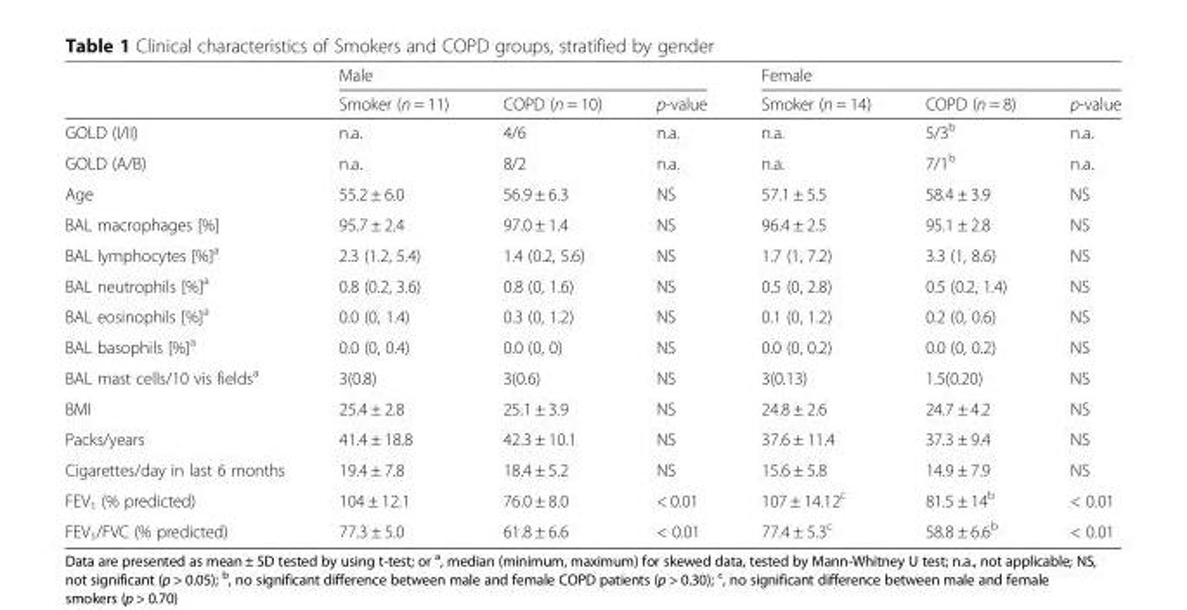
<table><thead><tr><td rowspan="2"></td><td colspan="3">Male</td><td colspan="3">Female</td></tr><tr><td>Smoker (n = 11)</td><td>COPD (n = 10)</td><td>p-value</td><td>Smoker (n = 14)</td><td>COPD (n = 8)</td><td>p-value</td></tr></thead><tbody><tr><td>GOLD (I/II)</td><td>n.a.</td><td>4/6</td><td>n.a.</td><td>n.a.</td><td>5/3<sup>b</sup></td><td>n.a.</td></tr><tr><td>GOLD (A/B)</td><td>n.a.</td><td>8/2</td><td>n.a.</td><td>n.a.</td><td>7/1<sup>b</sup></td><td>n.a.</td></tr><tr><td>Age</td><td>55.2 ± 6.0</td><td>56.9 ± 6.3</td><td>NS</td><td>57.1 ± 5.5</td><td>58.4 ± 3.9</td><td>NS</td></tr><tr><td>BAL macrophages [%]</td><td>95.7 ± 2.4</td><td>97.0 ± 1.4</td><td>NS</td><td>96.4 ± 2.5</td><td>95.1 ± 2.8</td><td>NS</td></tr><tr><td>BAL lymphocytes [%]<sup>a</sup></td><td>2.3 (1.2, 5.4)</td><td>1.4 (0.2, 5.6)</td><td>NS</td><td>1.7 (1, 7.2)</td><td>3.3 (1, 8.6)</td><td>NS</td></tr><tr><td>BAL neutrophils [%]<sup>a</sup></td><td>0.8 (0.2, 3.6)</td><td>0.8 (0, 1.6)</td><td>NS</td><td>0.5 (0, 2.8)</td><td>0.5 (0.2, 1.4)</td><td>NS</td></tr><tr><td>BAL eosinophils [%]<sup>a</sup></td><td>0.0 (0, 1.4)</td><td>0.3 (0, 1.2)</td><td>NS</td><td>0.1 (0, 1.2)</td><td>0.2 (0, 0.6)</td><td>NS</td></tr><tr><td>BAL basophils [%]<sup>a</sup></td><td>0.0 (0, 0.4)</td><td>0.0 (0, 0)</td><td>NS</td><td>0.0 (0, 0.2)</td><td>0.0 (0, 0.2)</td><td>NS</td></tr><tr><td>BAL mast cells/10 vis fields<sup>a</sup></td><td>3(0.8)</td><td>3(0.6)</td><td>NS</td><td>3(0.13)</td><td>1.5(0.20)</td><td>NS</td></tr><tr><td>BMI</td><td>25.4 ± 2.8</td><td>25.1 ± 3.9</td><td>NS</td><td>24.8 ± 2.6</td><td>24.7 ± 4.2</td><td>NS</td></tr><tr><td>Packs/years</td><td>41.4 ± 18.8</td><td>42.3 ± 10.1</td><td>NS</td><td>37.6 ± 11.4</td><td>37.3 ± 9.4</td><td>NS</td></tr><tr><td>Cigarettes/day in last 6 months</td><td>19.4 ± 7.8</td><td>18.4 ± 5.2</td><td>NS</td><td>15.6 ± 5.8</td><td>14.9 ± 7.9</td><td>NS</td></tr><tr><td>FEV<sub>1</sub> (% predicted)</td><td>104 ± 12.1</td><td>76.0 ± 8.0</td><td>&lt; 0.01</td><td>107 ± 14.12<sup>c</sup></td><td>81.5 ± 14<sup>b</sup></td><td>&lt; 0.01</td></tr><tr><td>FEV<sub>1</sub>/FVC (% predicted)</td><td>77.3 ± 5.0</td><td>61.8 ± 6.6</td><td>&lt; 0.01</td><td>77.4 ± 5.3<sup>c</sup></td><td>58.8 ± 6.6<sup>b</sup></td><td>&lt; 0.01</td></tr></tbody></table>